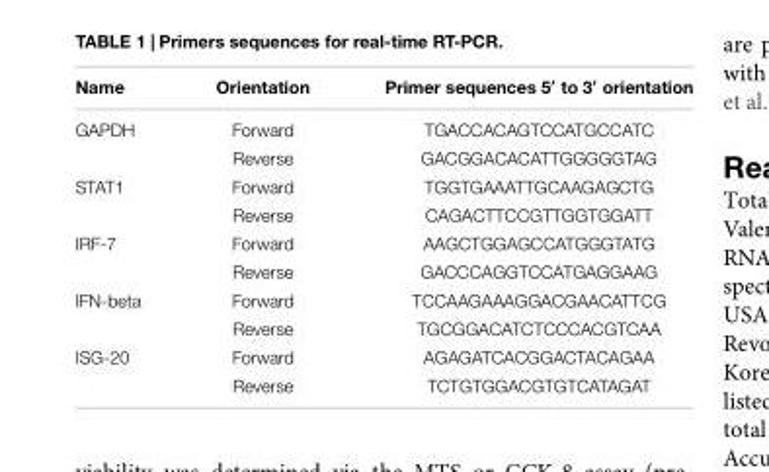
<table><thead><tr><td>Name</td><td>Orientation</td><td>Primer sequences 5′ to 3′ orientation</td></tr></thead><tbody><tr><td rowspan="2">GAPDH</td><td>Forward</td><td>TGACCACAGTCCATGCCATC</td></tr><tr><td>Reverse</td><td>GACGGACACATTGGGGGTAG</td></tr><tr><td rowspan="2">STAT1</td><td>Forward</td><td>TGGTGAAATTGCAAGAGCTG</td></tr><tr><td>Reverse</td><td>CAGACTTCCGTTGGTGGATT</td></tr><tr><td rowspan="2">IRF-7</td><td>Forward</td><td>AAGCTGGAGCCATGGGTATG</td></tr><tr><td>Reverse</td><td>GACCCAGGTCCATGAGGAAG</td></tr><tr><td rowspan="2">IFN-beta</td><td>Forward</td><td>TCCAAGAAAGGACGAACATTCG</td></tr><tr><td>Reverse</td><td>TGCGGACATCTCCCACGTCAA</td></tr><tr><td rowspan="2">ISG-20</td><td>Forward</td><td>AGAGATCACGGACTACAGAA</td></tr><tr><td>Reverse</td><td>TCTGTGGACGTGTCATAGAT</td></tr></tbody></table>